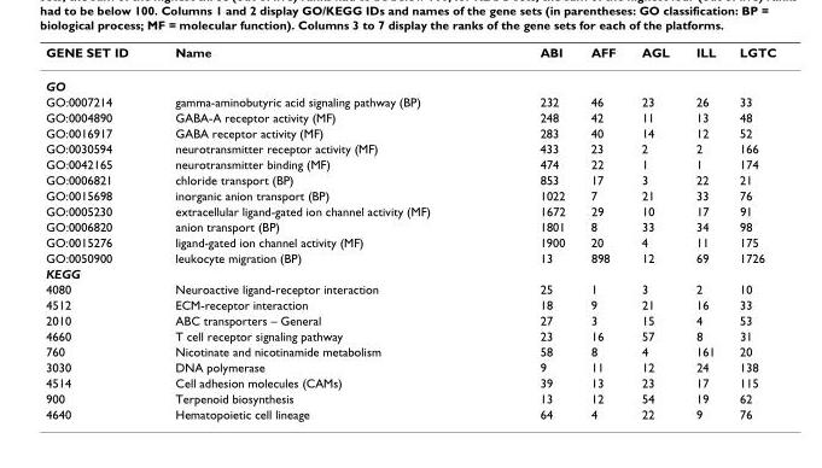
<table><thead><tr><td>GENE SET ID</td><td>Name</td><td>ABI</td><td>AFF</td><td>AGL</td><td>ILL</td><td>LGTC</td></tr></thead><tbody><tr><td colspan="7">GO</td></tr><tr><td>GO:0007214</td><td>gamma-aminobutyric acid signaling pathway (BP)</td><td>232</td><td>46</td><td>23</td><td>26</td><td>33</td></tr><tr><td>GO:0004890</td><td>GABA-A receptor activity (MF)</td><td>248</td><td>42</td><td>11</td><td>13</td><td>48</td></tr><tr><td>GO:0016917</td><td>GABA receptor activity (MF)</td><td>283</td><td>40</td><td>14</td><td>12</td><td>52</td></tr><tr><td>GO:0030594</td><td>neurotransmitter receptor activity (MF)</td><td>433</td><td>23</td><td>2</td><td>2</td><td>166</td></tr><tr><td>GO:0042165</td><td>neurotransmitter binding (MF)</td><td>474</td><td>22</td><td>1</td><td>1</td><td>174</td></tr><tr><td>GO:0006821</td><td>chloride transport (BP)</td><td>853</td><td>17</td><td>3</td><td>22</td><td>21</td></tr><tr><td>GO:0015698</td><td>inorganic anion transport (BP)</td><td>1022</td><td>7</td><td>21</td><td>33</td><td>76</td></tr><tr><td>GO:0005230</td><td>extracellular ligand-gated ion channel activity (MF)</td><td>1672</td><td>29</td><td>10</td><td>17</td><td>91</td></tr><tr><td>GO:0006820</td><td>anion transport (BP)</td><td>1801</td><td>8</td><td>33</td><td>34</td><td>98</td></tr><tr><td>GO:0015276</td><td>ligand-gated ion channel activity (MF)</td><td>1900</td><td>20</td><td>4</td><td>11</td><td>175</td></tr><tr><td>GO:0050900</td><td>leukocyte migration (BP)</td><td>13</td><td>898</td><td>12</td><td>69</td><td>1726</td></tr><tr><td colspan="7">KEGG</td></tr><tr><td>4080</td><td>Neuroactive ligand-receptor interaction</td><td>25</td><td>1</td><td>3</td><td>2</td><td>10</td></tr><tr><td>4512</td><td>ECM-receptor interaction</td><td>18</td><td>9</td><td>21</td><td>16</td><td>33</td></tr><tr><td>2010</td><td>ABC transporters – General</td><td>27</td><td>3</td><td>15</td><td>4</td><td>53</td></tr><tr><td>4660</td><td>T cell receptor signaling pathway</td><td>23</td><td>16</td><td>57</td><td>8</td><td>31</td></tr><tr><td>760</td><td>Nicotinate and nicotinamide metabolism</td><td>58</td><td>8</td><td>4</td><td>161</td><td>20</td></tr><tr><td>3030</td><td>DNA polymerase</td><td>9</td><td>11</td><td>12</td><td>24</td><td>138</td></tr><tr><td>4514</td><td>Cell adhesion molecules (CAMs)</td><td>39</td><td>13</td><td>23</td><td>17</td><td>115</td></tr><tr><td>900</td><td>Terpenoid biosynthesis</td><td>13</td><td>12</td><td>54</td><td>19</td><td>62</td></tr><tr><td>4640</td><td>Hematopoietic cell lineage</td><td>64</td><td>4</td><td>22</td><td>9</td><td>76</td></tr></tbody></table>